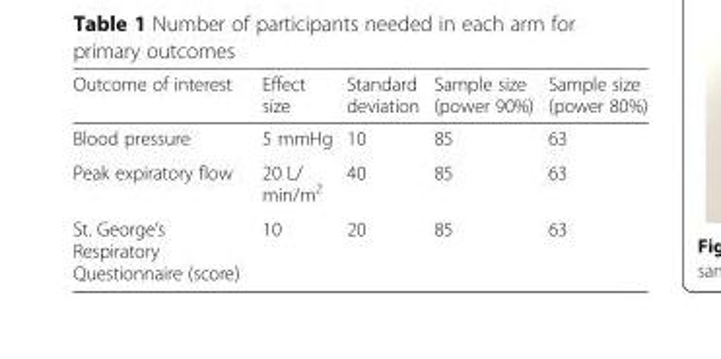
<table><thead><tr><td>Outcome of interest</td><td>Effect size</td><td>Standard deviation</td><td>Sample size (power 90%)</td><td>Sample size (power 80%)</td></tr></thead><tbody><tr><td>Blood pressure</td><td>5 mmHg</td><td>10</td><td>85</td><td>63</td></tr><tr><td>Peak expiratory flow</td><td>20 L/ min/m<sup>2</sup></td><td>40</td><td>85</td><td>63</td></tr><tr><td>St. George’s Respiratory Questionnaire (score)</td><td>10</td><td>20</td><td>85</td><td>63</td></tr></tbody></table>